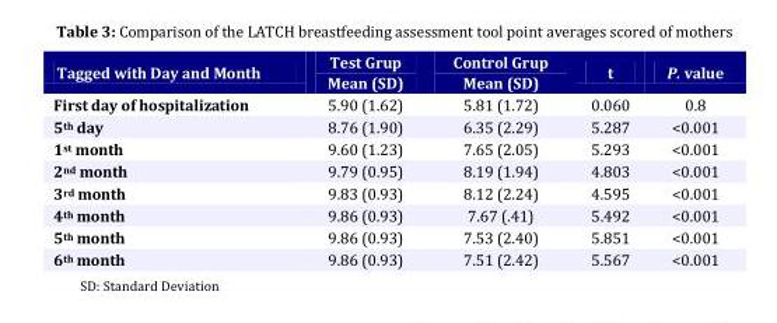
<table><thead><tr><td>Tagged with Day and Month</td><td>Test Grup Mean (SD)</td><td>Control Grup Mean (SD)</td><td>t</td><td>P. value</td></tr></thead><tbody><tr><td>First day of hospitalization</td><td>5.90 (1.62)</td><td>5.81 (1.72)</td><td>0.060</td><td>0.8</td></tr><tr><td>5<sup>th</sup> day</td><td>8.76 (1.90)</td><td>6.35 (2.29)</td><td>5.287</td><td>&lt;0.001</td></tr><tr><td>1<sup>st</sup> month</td><td>9.60 (1.23)</td><td>7.65 (2.05)</td><td>5.293</td><td>&lt;0.001</td></tr><tr><td>2<sup>nd</sup> month</td><td>9.79 (0.95)</td><td>8.19 (1.94)</td><td>4.803</td><td>&lt;0.001</td></tr><tr><td>3<sup>rd</sup> month</td><td>9.83 (0.93)</td><td>8.12 (2.24)</td><td>4.595</td><td>&lt;0.001</td></tr><tr><td>4<sup>th</sup> month</td><td>9.86 (0.93)</td><td>7.67 (.41)</td><td>5.492</td><td>&lt;0.001</td></tr><tr><td>5<sup>th</sup> month</td><td>9.86 (0.93)</td><td>7.53 (2.40)</td><td>5.851</td><td>&lt;0.001</td></tr><tr><td>6<sup>th</sup> month</td><td>9.86 (0.93)</td><td>7.51 (2.42)</td><td>5.567</td><td>&lt;0.001</td></tr></tbody></table>